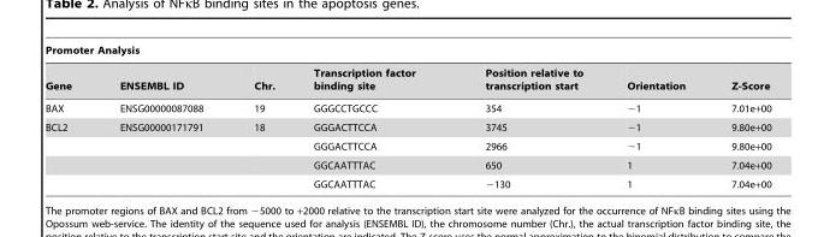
<table><thead><tr><td colspan="7">Promoter Analysis</td></tr><tr><td>Gene</td><td>ENSEMBL ID</td><td>Chr.</td><td>Transcription factor binding site</td><td>Position relative to transcription start</td><td>Orientation</td><td>Z-Score</td></tr></thead><tbody><tr><td>BAX</td><td>ENSG00000087088</td><td>19</td><td>GGGCCTGCCC</td><td>354</td><td>−1</td><td>7.01e+00</td></tr><tr><td rowspan="4">BCL2</td><td>ENSG00000171791</td><td>18</td><td>GGGACTTCCA</td><td>3745</td><td>−1</td><td>9.80e+00</td></tr><tr><td></td><td></td><td>GGGACTTCCA</td><td>2966</td><td>−1</td><td>9.80e+00</td></tr><tr><td></td><td></td><td>GGCAATTTAC</td><td>650</td><td>1</td><td>7.04e+00</td></tr><tr><td></td><td></td><td>GGCAATTTAC</td><td>−130</td><td>1</td><td>7.04e+00</td></tr></tbody></table>